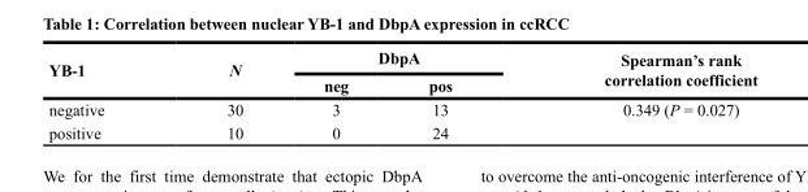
<table><thead><tr><td rowspan="2">YB-1</td><td rowspan="2">N</td><td colspan="2">DbpA</td><td rowspan="2">Spearman’s rank correlation coefficient</td></tr><tr><td>neg</td><td>pos</td></tr></thead><tbody><tr><td>negative</td><td>30</td><td>3</td><td>13</td><td>0.349 (P = 0.027)</td></tr><tr><td>positive</td><td>10</td><td>0</td><td>24</td><td></td></tr></tbody></table>